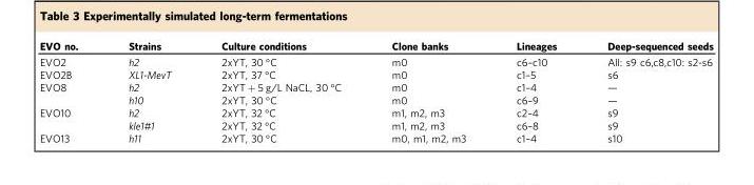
<table><thead><tr><td>EVO no.</td><td>Strains</td><td>Culture conditions</td><td>Clone banks</td><td>Lineages</td><td>Deep-sequenced seeds</td></tr></thead><tbody><tr><td>EVO2</td><td>h2</td><td>2xYT, 30 °C</td><td>m0</td><td>c6–c10</td><td>All: s9 c6,c8,c10: s2-s6</td></tr><tr><td>EVO2B</td><td>XL1-MevT</td><td>2xYT, 37 °C</td><td>m0</td><td>c1–5</td><td>s6</td></tr><tr><td rowspan="2">EVO8</td><td>h2</td><td>2xYT + 5 g/L NaCL, 30 °C</td><td>m0</td><td>c1–4</td><td>—</td></tr><tr><td>h10</td><td>2xYT, 30 °C</td><td>m0</td><td>c6–9</td><td>—</td></tr><tr><td rowspan="2">EVO10</td><td>h2</td><td>2xYT, 32 °C</td><td>m1, m2, m3</td><td>c2–4</td><td>s9</td></tr><tr><td>kle1#1</td><td>2xYT, 32 °C</td><td>m1, m2, m3</td><td>c6–8</td><td>s9</td></tr><tr><td>EVO13</td><td>h11</td><td>2xYT, 30 °C</td><td>m0, m1, m2, m3</td><td>c1–4</td><td>s10</td></tr></tbody></table>